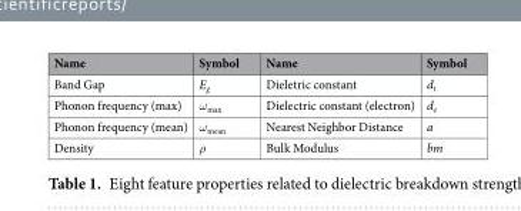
<table><thead><tr><td>Name</td><td>Symbol</td><td>Name</td><td>Symbol</td></tr></thead><tbody><tr><td>Band Gap</td><td>E<sub>g</sub></td><td>Dieletric constant</td><td>d<sub>t</sub></td></tr><tr><td>Phonon frequency (max)</td><td>ω<sub>max</sub></td><td>Dielectric constant (electron)</td><td>d<sub>e</sub></td></tr><tr><td>Phonon frequency (mean)</td><td>ω<sub>mean</sub></td><td>Nearest Neighbor Distance</td><td>a</td></tr><tr><td>Density</td><td>ρ</td><td>Bulk Modulus</td><td>bm</td></tr></tbody></table>